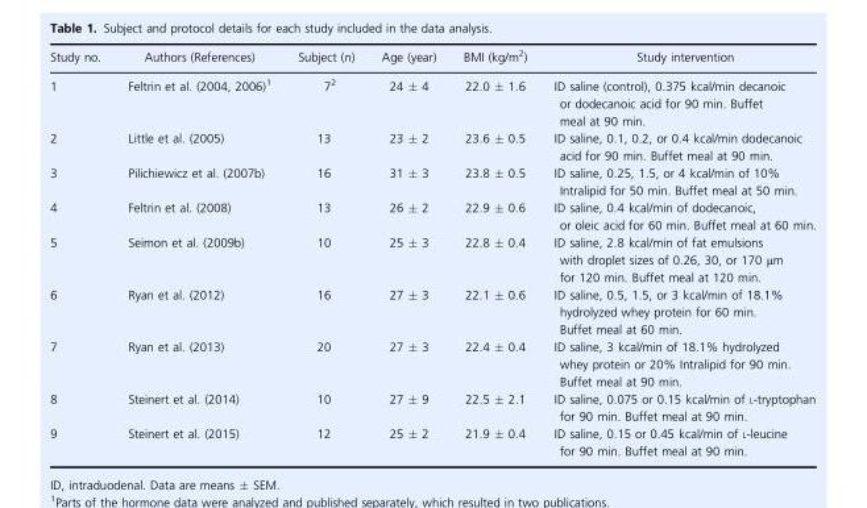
<table><thead><tr><td>Study no.</td><td>Authors (References)</td><td>Subject (n)</td><td>Age (year)</td><td>BMI (kg/m<sup>2</sup>)</td><td>Study intervention</td></tr></thead><tbody><tr><td>1</td><td>Feltrin et al. (2004, 2006)1</td><td>72</td><td>24 ± 4</td><td>22.0 ± 1.6</td><td>ID saline (control), 0.375 kcal/min decanoic or dodecanoic acid for 90 min. Buffet meal at 90 min.</td></tr><tr><td>2</td><td>Little et al. (2005)</td><td>13</td><td>23 ± 2</td><td>23.6 ± 0.5</td><td>ID saline, 0.1, 0.2, or 0.4 kcal/min dodecanoic acid for 90 min. Buffet meal at 90 min.</td></tr><tr><td>3</td><td>Pilichiewicz et al. (2007b)</td><td>16</td><td>31 ± 3</td><td>23.8 ± 0.5</td><td>ID saline, 0.25, 1.5, or 4 kcal/min of 10% Intralipid for 50 min. Buffet meal at 50 min.</td></tr><tr><td>4</td><td>Feltrin et al. (2008)</td><td>13</td><td>26 ± 2</td><td>22.9 ± 0.6</td><td>ID saline, 0.4 kcal/min of dodecanoic, or oleic acid for 60 min. Buffet meal at 60 min.</td></tr><tr><td>5</td><td>Seimon et al. (2009b)</td><td>10</td><td>25 ± 3</td><td>22.8 ± 0.4</td><td>ID saline, 2.8 kcal/min of fat emulsions with droplet sizes of 0.26, 30, or 170 μm for 120 min. Buffet meal at 120 min.</td></tr><tr><td>6</td><td>Ryan et al. (2012)</td><td>16</td><td>27 ± 3</td><td>22.1 ± 0.6</td><td>ID saline, 0.5, 1.5, or 3 kcal/min of 18.1% hydrolyzed whey protein for 60 min. Buffet meal at 60 min.</td></tr><tr><td>7</td><td>Ryan et al. (2013)</td><td>20</td><td>27 ± 3</td><td>22.4 ± 0.4</td><td>ID saline, 3 kcal/min of 18.1% hydrolyzed whey protein or 20% Intralipid for 90 min. Buffet meal at 90 min.</td></tr><tr><td>8</td><td>Steinert et al. (2014)</td><td>10</td><td>27 ± 9</td><td>22.5 ± 2.1</td><td>ID saline, 0.075 or 0.15 kcal/min of L-tryptophan for 90 min. Buffet meal at 90 min.</td></tr><tr><td>9</td><td>Steinert et al. (2015)</td><td>12</td><td>25 ± 2</td><td>21.9 ± 0.4</td><td>ID saline, 0.15 or 0.45 kcal/min of L-leucine for 90 min. Buffet meal at 90 min.</td></tr></tbody></table>